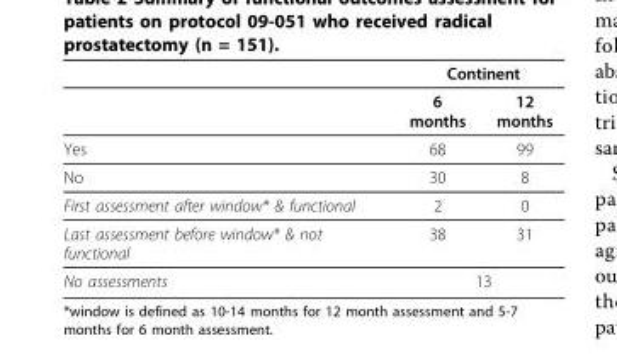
<table><thead><tr><td rowspan="2"></td><td colspan="2">Continent</td></tr><tr><td>6 months</td><td>12 months</td></tr></thead><tbody><tr><td>Yes</td><td>68</td><td>99</td></tr><tr><td>No</td><td>30</td><td>8</td></tr><tr><td>First assessment after window* &amp; functional</td><td>2</td><td>0</td></tr><tr><td>Last assessment before window* &amp; not functional</td><td>38</td><td>31</td></tr><tr><td>No assessments</td><td colspan="2">13</td></tr></tbody></table>